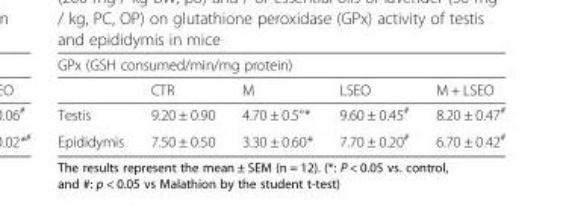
<table><thead><tr><td colspan="5">GPx (GSH consumed/min/mg protein)</td></tr><tr><td></td><td>CTR</td><td>M</td><td>LSEO</td><td>M + LSEO</td></tr></thead><tbody><tr><td>Testis</td><td>9.20 ± 0.90</td><td>4.70 ± 0.5°*</td><td>9.60 ± 0.45<sup>#</sup></td><td>8.20 ± 0.47<sup>#</sup></td></tr><tr><td>Epididymis</td><td>7.50 ± 0.50</td><td>3.30 ± 0.60*</td><td>7.70 ± 0.20<sup>#</sup></td><td>6.70 ± 0.42<sup>#</sup></td></tr></tbody></table>